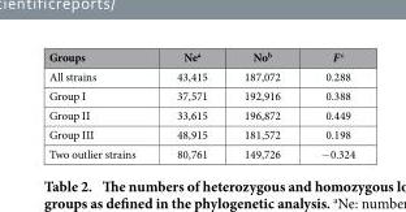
<table><thead><tr><td>Groups</td><td>Ne<sup>a</sup></td><td>No<sup>b</sup></td><td>F <sup>c</sup></td></tr></thead><tbody><tr><td>All strains</td><td>43,415</td><td>187,072</td><td>0.288</td></tr><tr><td>Group I</td><td>37,571</td><td>192,916</td><td>0.388</td></tr><tr><td>Group II</td><td>33,615</td><td>196,872</td><td>0.449</td></tr><tr><td>Group III</td><td>48,915</td><td>181,572</td><td>0.198</td></tr><tr><td>Two outlier strains</td><td>80,761</td><td>149,726</td><td>− 0.324</td></tr></tbody></table>